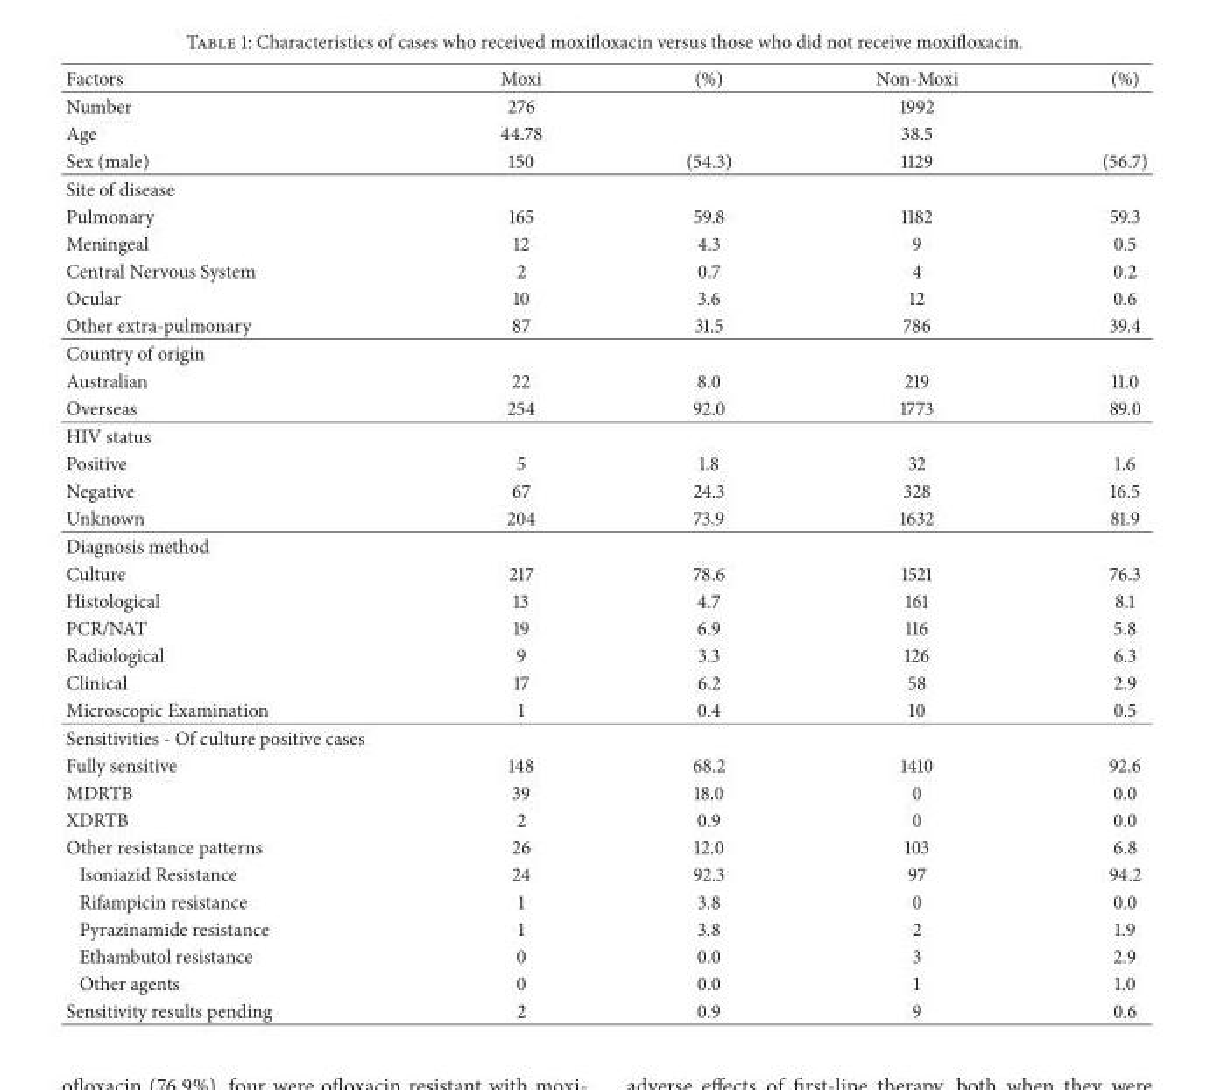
<table><thead><tr><td>Factors</td><td>Moxi</td><td>(%)</td><td>Non-Moxi</td><td>(%)</td></tr></thead><tbody><tr><td>Number</td><td>276</td><td></td><td>1992</td><td></td></tr><tr><td>Age</td><td>44.78</td><td></td><td>38.5</td><td></td></tr><tr><td>Sex (male)</td><td>150</td><td>(54.3)</td><td>1129</td><td>(56.7)</td></tr><tr><td colspan="5">Site of disease</td></tr><tr><td>Pulmonary</td><td>165</td><td>59.8</td><td>1182</td><td>59.3</td></tr><tr><td>Meningeal</td><td>12</td><td>4.3</td><td>9</td><td>0.5</td></tr><tr><td>Central Nervous System</td><td>2</td><td>0.7</td><td>4</td><td>0.2</td></tr><tr><td>Ocular</td><td>10</td><td>3.6</td><td>12</td><td>0.6</td></tr><tr><td>Other extra-pulmonary</td><td>87</td><td>31.5</td><td>786</td><td>39.4</td></tr><tr><td colspan="5">Country of origin</td></tr><tr><td>Australian</td><td>22</td><td>8.0</td><td>219</td><td>11.0</td></tr><tr><td>Overseas</td><td>254</td><td>92.0</td><td>1773</td><td>89.0</td></tr><tr><td colspan="5">HIV status</td></tr><tr><td>Positive</td><td>5</td><td>1.8</td><td>32</td><td>1.6</td></tr><tr><td>Negative</td><td>67</td><td>24.3</td><td>328</td><td>16.5</td></tr><tr><td>Unknown</td><td>204</td><td>73.9</td><td>1632</td><td>81.9</td></tr><tr><td colspan="5">Diagnosis method</td></tr><tr><td>Culture</td><td>217</td><td>78.6</td><td>1521</td><td>76.3</td></tr><tr><td>Histological</td><td>13</td><td>4.7</td><td>161</td><td>8.1</td></tr><tr><td>PCR/NAT</td><td>19</td><td>6.9</td><td>116</td><td>5.8</td></tr><tr><td>Radiological</td><td>9</td><td>3.3</td><td>126</td><td>6.3</td></tr><tr><td>Clinical</td><td>17</td><td>6.2</td><td>58</td><td>2.9</td></tr><tr><td>Microscopic Examination</td><td>1</td><td>0.4</td><td>10</td><td>0.5</td></tr><tr><td colspan="5">Sensitivities - Of culture positive cases</td></tr><tr><td>Fully sensitive</td><td>148</td><td>68.2</td><td>1410</td><td>92.6</td></tr><tr><td>MDRTB</td><td>39</td><td>18.0</td><td>0</td><td>0.0</td></tr><tr><td>XDRTB</td><td>2</td><td>0.9</td><td>0</td><td>0.0</td></tr><tr><td>Other resistance patterns</td><td>26</td><td>12.0</td><td>103</td><td>6.8</td></tr><tr><td>Isoniazid Resistance</td><td>24</td><td>92.3</td><td>97</td><td>94.2</td></tr><tr><td>Rifampicin resistance</td><td>1</td><td>3.8</td><td>0</td><td>0.0</td></tr><tr><td>Pyrazinamide resistance</td><td>1</td><td>3.8</td><td>2</td><td>1.9</td></tr><tr><td>Ethambutol resistance</td><td>0</td><td>0.0</td><td>3</td><td>2.9</td></tr><tr><td>Other agents</td><td>0</td><td>0.0</td><td>1</td><td>1.0</td></tr><tr><td>Sensitivity results pending</td><td>2</td><td>0.9</td><td>9</td><td>0.6</td></tr></tbody></table>